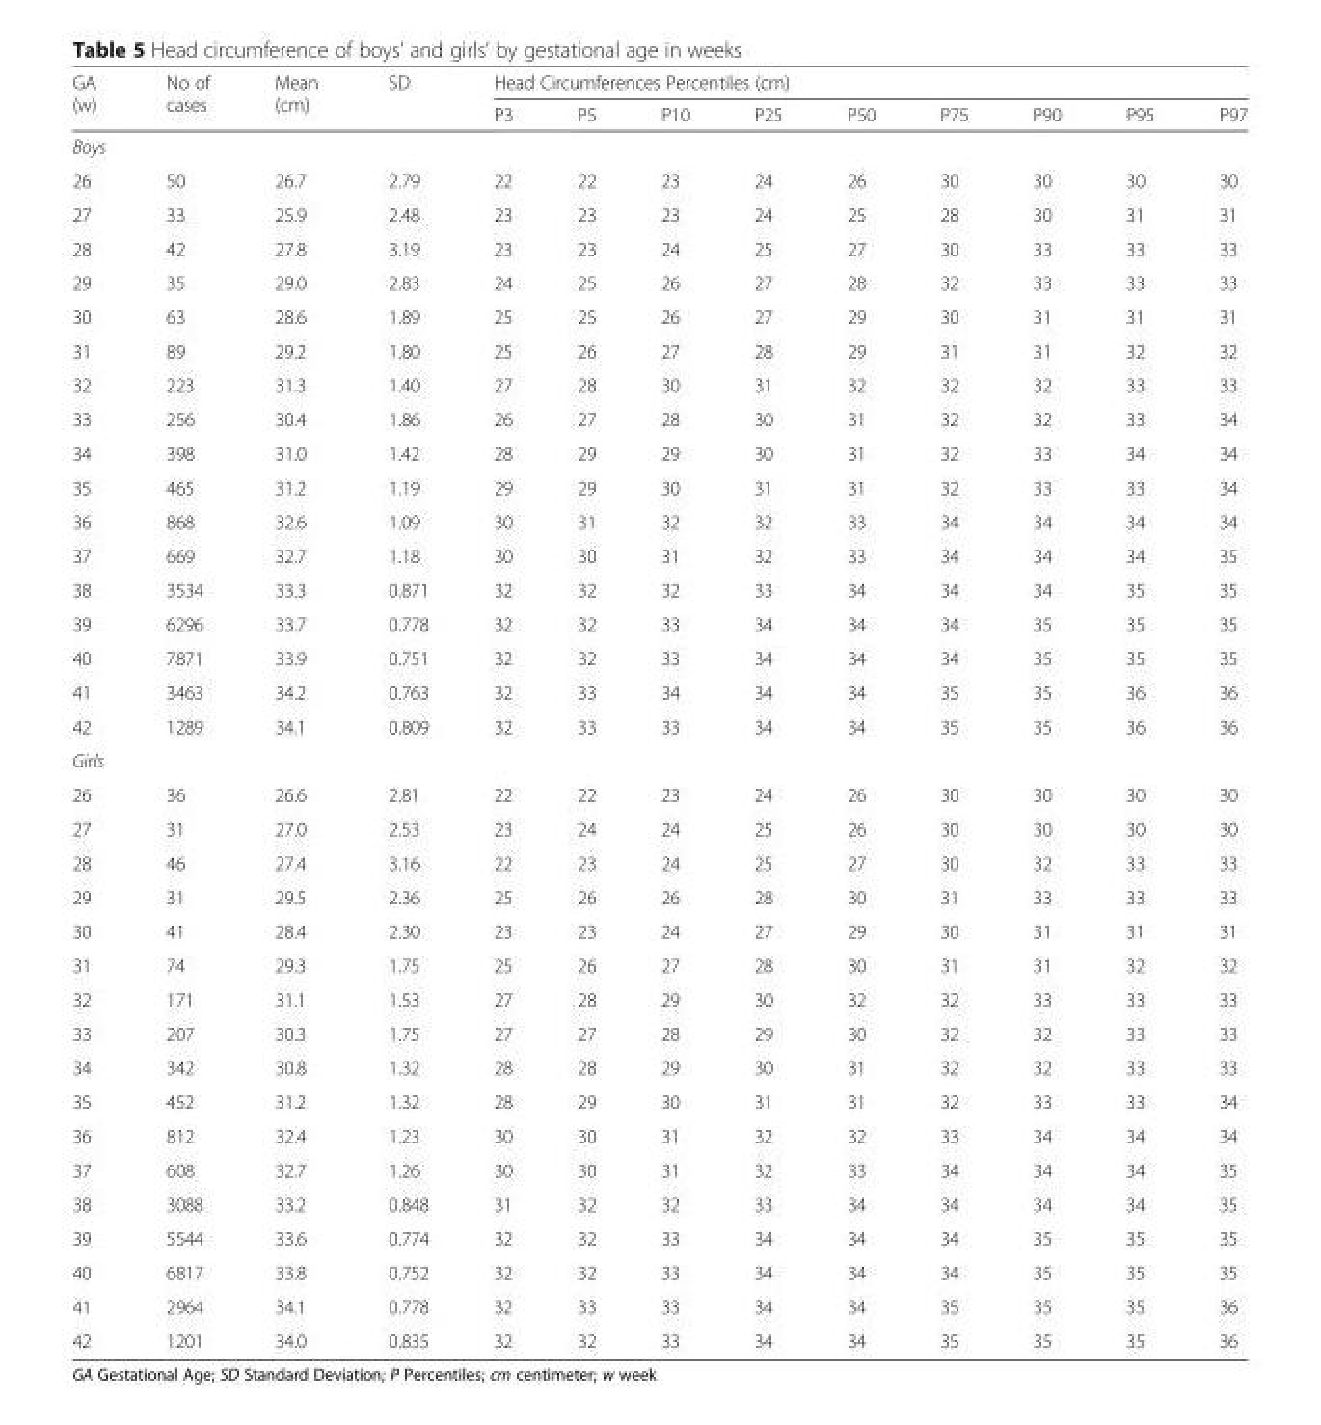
<table><thead><tr><td rowspan="2">GA (w)</td><td rowspan="2">No of cases</td><td rowspan="2">Mean (cm)</td><td rowspan="2">SD</td><td colspan="9">Head Circumferences Percentiles (cm)</td></tr><tr><td>P3</td><td>P5</td><td>P10</td><td>P25</td><td>P50</td><td>P75</td><td>P90</td><td>P95</td><td>P97</td></tr></thead><tbody><tr><td colspan="13">Boys</td></tr><tr><td>26</td><td>50</td><td>26.7</td><td>2.79</td><td>22</td><td>22</td><td>23</td><td>24</td><td>26</td><td>30</td><td>30</td><td>30</td><td>30</td></tr><tr><td>27</td><td>33</td><td>25.9</td><td>2.48</td><td>23</td><td>23</td><td>23</td><td>24</td><td>25</td><td>28</td><td>30</td><td>31</td><td>31</td></tr><tr><td>28</td><td>42</td><td>27.8</td><td>3.19</td><td>23</td><td>23</td><td>24</td><td>25</td><td>27</td><td>30</td><td>33</td><td>33</td><td>33</td></tr><tr><td>29</td><td>35</td><td>29.0</td><td>2.83</td><td>24</td><td>25</td><td>26</td><td>27</td><td>28</td><td>32</td><td>33</td><td>33</td><td>33</td></tr><tr><td>30</td><td>63</td><td>28.6</td><td>1.89</td><td>25</td><td>25</td><td>26</td><td>27</td><td>29</td><td>30</td><td>31</td><td>31</td><td>31</td></tr><tr><td>31</td><td>89</td><td>29.2</td><td>1.80</td><td>25</td><td>26</td><td>27</td><td>28</td><td>29</td><td>31</td><td>31</td><td>32</td><td>32</td></tr><tr><td>32</td><td>223</td><td>31.3</td><td>1.40</td><td>27</td><td>28</td><td>30</td><td>31</td><td>32</td><td>32</td><td>32</td><td>33</td><td>33</td></tr><tr><td>33</td><td>256</td><td>30.4</td><td>1.86</td><td>26</td><td>27</td><td>28</td><td>30</td><td>31</td><td>32</td><td>32</td><td>33</td><td>34</td></tr><tr><td>34</td><td>398</td><td>31.0</td><td>1.42</td><td>28</td><td>29</td><td>29</td><td>30</td><td>31</td><td>32</td><td>33</td><td>34</td><td>34</td></tr><tr><td>35</td><td>465</td><td>31.2</td><td>1.19</td><td>29</td><td>29</td><td>30</td><td>31</td><td>31</td><td>32</td><td>33</td><td>33</td><td>34</td></tr><tr><td>36</td><td>868</td><td>32.6</td><td>1.09</td><td>30</td><td>31</td><td>32</td><td>32</td><td>33</td><td>34</td><td>34</td><td>34</td><td>34</td></tr><tr><td>37</td><td>669</td><td>32.7</td><td>1.18</td><td>30</td><td>30</td><td>31</td><td>32</td><td>33</td><td>34</td><td>34</td><td>34</td><td>35</td></tr><tr><td>38</td><td>3534</td><td>33.3</td><td>0.871</td><td>32</td><td>32</td><td>32</td><td>33</td><td>34</td><td>34</td><td>34</td><td>35</td><td>35</td></tr><tr><td>39</td><td>6296</td><td>33.7</td><td>0.778</td><td>32</td><td>32</td><td>33</td><td>34</td><td>34</td><td>34</td><td>35</td><td>35</td><td>35</td></tr><tr><td>40</td><td>7871</td><td>33.9</td><td>0.751</td><td>32</td><td>32</td><td>33</td><td>34</td><td>34</td><td>34</td><td>35</td><td>35</td><td>35</td></tr><tr><td>41</td><td>3463</td><td>34.2</td><td>0.763</td><td>32</td><td>33</td><td>34</td><td>34</td><td>34</td><td>35</td><td>35</td><td>36</td><td>36</td></tr><tr><td>42</td><td>1289</td><td>34.1</td><td>0.809</td><td>32</td><td>33</td><td>33</td><td>34</td><td>34</td><td>35</td><td>35</td><td>36</td><td>36</td></tr><tr><td colspan="13">Girls</td></tr><tr><td>26</td><td>36</td><td>26.6</td><td>2.81</td><td>22</td><td>22</td><td>23</td><td>24</td><td>26</td><td>30</td><td>30</td><td>30</td><td>30</td></tr><tr><td>27</td><td>31</td><td>27.0</td><td>2.53</td><td>23</td><td>24</td><td>24</td><td>25</td><td>26</td><td>30</td><td>30</td><td>30</td><td>30</td></tr><tr><td>28</td><td>46</td><td>27.4</td><td>3.16</td><td>22</td><td>23</td><td>24</td><td>25</td><td>27</td><td>30</td><td>32</td><td>33</td><td>33</td></tr><tr><td>29</td><td>31</td><td>29.5</td><td>2.36</td><td>25</td><td>26</td><td>26</td><td>28</td><td>30</td><td>31</td><td>33</td><td>33</td><td>33</td></tr><tr><td>30</td><td>41</td><td>28.4</td><td>2.30</td><td>23</td><td>23</td><td>24</td><td>27</td><td>29</td><td>30</td><td>31</td><td>31</td><td>31</td></tr><tr><td>31</td><td>74</td><td>29.3</td><td>1.75</td><td>25</td><td>26</td><td>27</td><td>28</td><td>30</td><td>31</td><td>31</td><td>32</td><td>32</td></tr><tr><td>32</td><td>171</td><td>31.1</td><td>1.53</td><td>27</td><td>28</td><td>29</td><td>30</td><td>32</td><td>32</td><td>33</td><td>33</td><td>33</td></tr><tr><td>33</td><td>207</td><td>30.3</td><td>1.75</td><td>27</td><td>27</td><td>28</td><td>29</td><td>30</td><td>32</td><td>32</td><td>33</td><td>33</td></tr><tr><td>34</td><td>342</td><td>30.8</td><td>1.32</td><td>28</td><td>28</td><td>29</td><td>30</td><td>31</td><td>32</td><td>32</td><td>33</td><td>33</td></tr><tr><td>35</td><td>452</td><td>31.2</td><td>1.32</td><td>28</td><td>29</td><td>30</td><td>31</td><td>31</td><td>32</td><td>33</td><td>33</td><td>34</td></tr><tr><td>36</td><td>812</td><td>32.4</td><td>1.23</td><td>30</td><td>30</td><td>31</td><td>32</td><td>32</td><td>33</td><td>34</td><td>34</td><td>34</td></tr><tr><td>37</td><td>608</td><td>32.7</td><td>1.26</td><td>30</td><td>30</td><td>31</td><td>32</td><td>33</td><td>34</td><td>34</td><td>34</td><td>35</td></tr><tr><td>38</td><td>3088</td><td>33.2</td><td>0.848</td><td>31</td><td>32</td><td>32</td><td>33</td><td>34</td><td>34</td><td>34</td><td>34</td><td>35</td></tr><tr><td>39</td><td>5544</td><td>33.6</td><td>0.774</td><td>32</td><td>32</td><td>33</td><td>34</td><td>34</td><td>34</td><td>35</td><td>35</td><td>35</td></tr><tr><td>40</td><td>6817</td><td>33.8</td><td>0.752</td><td>32</td><td>32</td><td>33</td><td>34</td><td>34</td><td>34</td><td>35</td><td>35</td><td>35</td></tr><tr><td>41</td><td>2964</td><td>34.1</td><td>0.778</td><td>32</td><td>33</td><td>33</td><td>34</td><td>34</td><td>35</td><td>35</td><td>35</td><td>36</td></tr><tr><td>42</td><td>1201</td><td>34.0</td><td>0.835</td><td>32</td><td>32</td><td>33</td><td>34</td><td>34</td><td>35</td><td>35</td><td>35</td><td>36</td></tr></tbody></table>